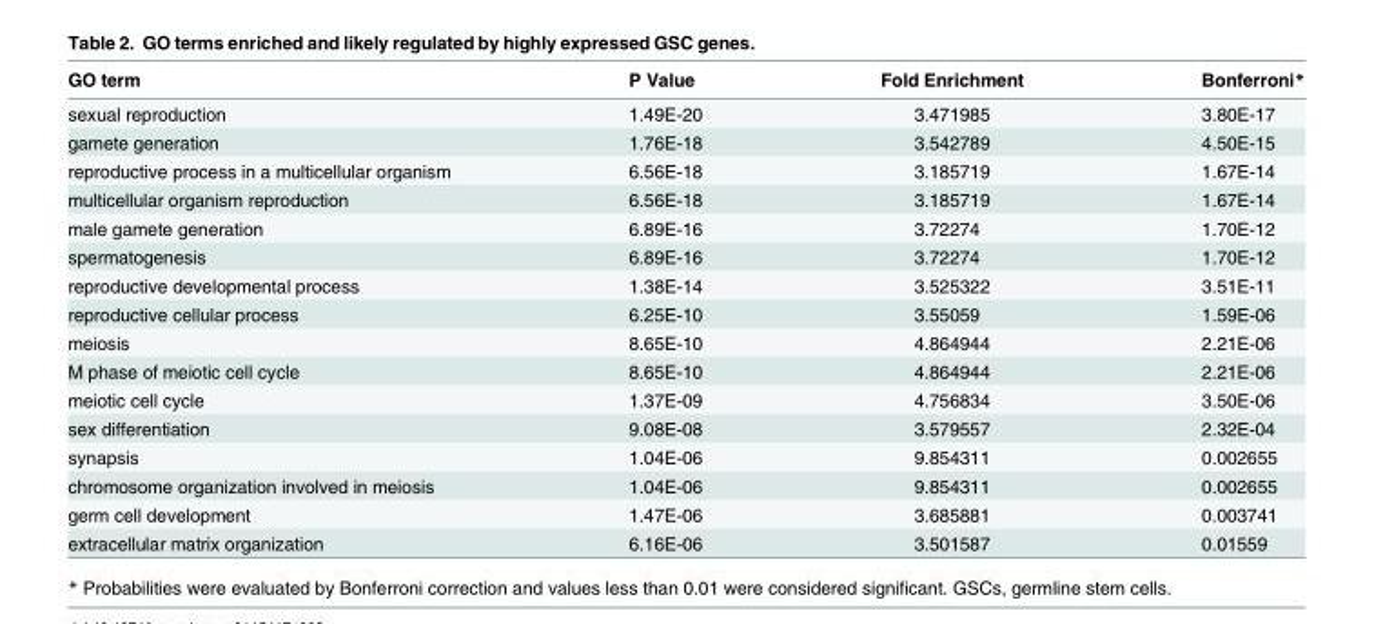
<table><thead><tr><td>GO term</td><td>P Value</td><td>Fold Enrichment</td><td>Bonferroni*</td></tr></thead><tbody><tr><td>sexual reproduction</td><td>1.49E-20</td><td>3.471985</td><td>3.80E-17</td></tr><tr><td>gamete generation</td><td>1.76E-18</td><td>3.542789</td><td>4.50E-15</td></tr><tr><td>reproductive process in a multicellular organism</td><td>6.56E-18</td><td>3.185719</td><td>1.67E-14</td></tr><tr><td>multicellular organism reproduction</td><td>6.56E-18</td><td>3.185719</td><td>1.67E-14</td></tr><tr><td>male gamete generation</td><td>6.89E-16</td><td>3.72274</td><td>1.70E-12</td></tr><tr><td>spermatogenesis</td><td>6.89E-16</td><td>3.72274</td><td>1.70E-12</td></tr><tr><td>reproductive developmental process</td><td>1.38E-14</td><td>3.525322</td><td>3.51E-11</td></tr><tr><td>reproductive cellular process</td><td>6.25E-10</td><td>3.55059</td><td>1.59E-06</td></tr><tr><td>meiosis</td><td>8.65E-10</td><td>4.864944</td><td>2.21E-06</td></tr><tr><td>M phase of meiotic cell cycle</td><td>8.65E-10</td><td>4.864944</td><td>2.21E-06</td></tr><tr><td>meiotic cell cycle</td><td>1.37E-09</td><td>4.756834</td><td>3.50E-06</td></tr><tr><td>sex differentiation</td><td>9.08E-08</td><td>3.579557</td><td>2.32E-04</td></tr><tr><td>synapsis</td><td>1.04E-06</td><td>9.854311</td><td>0.002655</td></tr><tr><td>chromosome organization involved in meiosis</td><td>1.04E-06</td><td>9.854311</td><td>0.002655</td></tr><tr><td>germ cell development</td><td>1.47E-06</td><td>3.685881</td><td>0.003741</td></tr><tr><td>extracellular matrix organization</td><td>6.16E-06</td><td>3.501587</td><td>0.01559</td></tr></tbody></table>